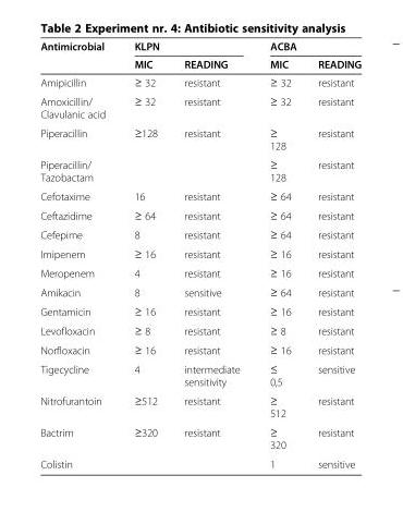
<table><thead><tr><td rowspan="2">Antimicrobial</td><td colspan="2">KLPN</td><td colspan="2">ACBA</td></tr><tr><td>MIC</td><td>READING</td><td>MIC</td><td>READING</td></tr></thead><tbody><tr><td>Amipicillin</td><td>≥ 32</td><td>resistant</td><td>≥ 32</td><td>resistant</td></tr><tr><td>Amoxicillin/ Clavulanic acid</td><td>≥ 32</td><td>resistant</td><td>≥ 32</td><td>resistant</td></tr><tr><td>Piperacillin</td><td>≥128</td><td>resistant</td><td>≥ 128</td><td>resistant</td></tr><tr><td>Piperacillin/ Tazobactam</td><td></td><td></td><td>≥ 128</td><td>resistant</td></tr><tr><td>Cefotaxime</td><td>16</td><td>resistant</td><td>≥ 64</td><td>resistant</td></tr><tr><td>Ceftazidime</td><td>≥ 64</td><td>resistant</td><td>≥ 64</td><td>resistant</td></tr><tr><td>Cefepime</td><td>8</td><td>resistant</td><td>≥ 64</td><td>resistant</td></tr><tr><td>Imipenem</td><td>≥ 16</td><td>resistant</td><td>≥ 16</td><td>resistant</td></tr><tr><td>Meropenem</td><td>4</td><td>resistant</td><td>≥ 16</td><td>resistant</td></tr><tr><td>Amikacin</td><td>8</td><td>sensitive</td><td>≥ 64</td><td>resistant</td></tr><tr><td>Gentamicin</td><td>≥ 16</td><td>resistant</td><td>≥ 16</td><td>resistant</td></tr><tr><td>Levofloxacin</td><td>≥ 8</td><td>resistant</td><td>≥ 8</td><td>resistant</td></tr><tr><td>Norfloxacin</td><td>≥ 16</td><td>resistant</td><td>≥ 16</td><td>resistant</td></tr><tr><td>Tigecycline</td><td>4</td><td>intermediate sensitivity</td><td>≤ 0,5</td><td>sensitive</td></tr><tr><td>Nitrofurantoin</td><td>≥512</td><td>resistant</td><td>≥ 512</td><td>resistant</td></tr><tr><td>Bactrim</td><td>≥320</td><td>resistant</td><td>≥ 320</td><td>resistant</td></tr><tr><td>Colistin</td><td></td><td></td><td>1</td><td>sensitive</td></tr></tbody></table>